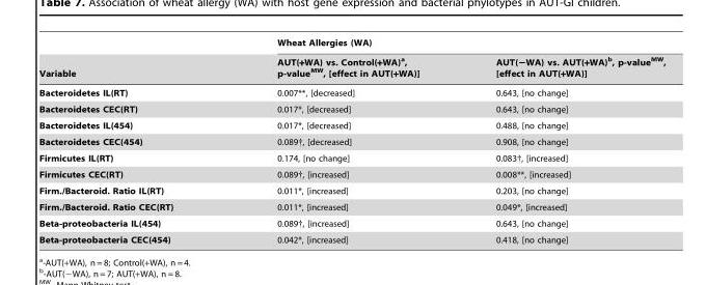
<table><thead><tr><td rowspan="2">Variable</td><td colspan="2">Wheat Allergies (WA)</td></tr><tr><td>AUT(+WA) vs. Control(+WA)<sup>a</sup>, p-value<sup>MW</sup>, [effect in AUT(+WA)]</td><td>AUT(−WA) vs. AUT(+WA)<sup>b</sup>, p-value<sup>MW</sup>, [effect in AUT(+WA)]</td></tr></thead><tbody><tr><td>Bacteroidetes IL(RT)</td><td>0.007**, [decreased]</td><td>0.643, [no change]</td></tr><tr><td>Bacteroidetes CEC(RT)</td><td>0.017*, [decreased]</td><td>0.643, [no change]</td></tr><tr><td>Bacteroidetes IL(454)</td><td>0.017*, [decreased]</td><td>0.488, [no change]</td></tr><tr><td>Bacteroidetes CEC(454)</td><td>0.089†, [decreased]</td><td>0.908, [no change]</td></tr><tr><td>Firmicutes IL(RT)</td><td>0.174, [no change]</td><td>0.083†, [increased]</td></tr><tr><td>Firmicutes CEC(RT)</td><td>0.089†, [increased]</td><td>0.008**, [increased]</td></tr><tr><td>Firm./Bacteroid. Ratio IL(RT)</td><td>0.011*, [increased]</td><td>0.203, [no change]</td></tr><tr><td>Firm./Bacteroid. Ratio CEC(RT)</td><td>0.011*, [increased]</td><td>0.049*, [increased]</td></tr><tr><td>Beta-proteobacteria IL(454)</td><td>0.089†, [increased]</td><td>0.643, [no change]</td></tr><tr><td>Beta-proteobacteria CEC(454)</td><td>0.042*, [increased]</td><td>0.418, [no change]</td></tr></tbody></table>